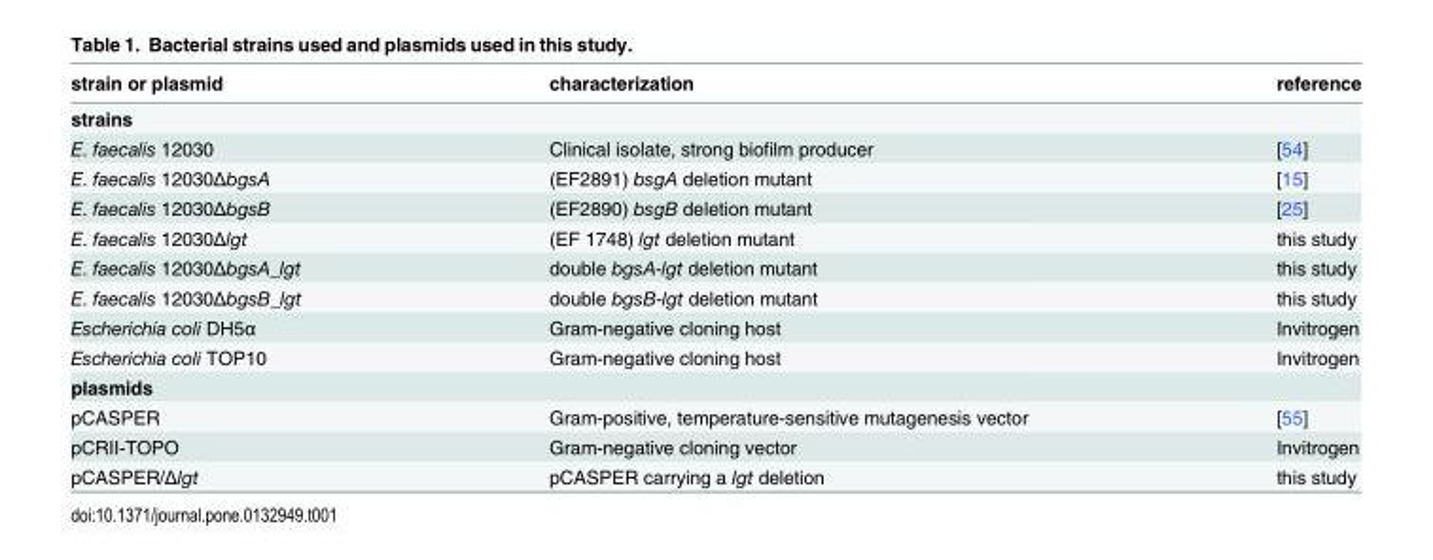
<table><thead><tr><td>strain or plasmid</td><td>characterization</td><td>reference</td></tr></thead><tbody><tr><td colspan="3">strains</td></tr><tr><td>E. faecalis 12030</td><td>Clinical isolate, strong biofilm producer</td><td>[54]</td></tr><tr><td>E. faecalis 12030ΔbgsA</td><td>(EF2891) bsgA deletion mutant</td><td>[15]</td></tr><tr><td>E. faecalis 12030ΔbgsB</td><td>(EF2890) bsgB deletion mutant</td><td>[25]</td></tr><tr><td>E. faecalis 12030Δlgt</td><td>(EF 1748) lgt deletion mutant</td><td>this study</td></tr><tr><td>E. faecalis 12030ΔbgsA_lgt</td><td>double bgsA-lgt deletion mutant</td><td>this study</td></tr><tr><td>E. faecalis 12030ΔbgsB_lgt</td><td>double bgsB-lgt deletion mutant</td><td>this study</td></tr><tr><td>Escherichia coli DH5α</td><td>Gram-negative cloning host</td><td>Invitrogen</td></tr><tr><td>Escherichia coli TOP10</td><td>Gram-negative cloning host</td><td>Invitrogen</td></tr><tr><td colspan="3">plasmids</td></tr><tr><td>pCASPER</td><td>Gram-positive, temperature-sensitive mutagenesis vector</td><td>[55]</td></tr><tr><td>pCRII-TOPO</td><td>Gram-negative cloning vector</td><td>Invitrogen</td></tr><tr><td>pCASPER/Δlgt</td><td>pCASPER carrying a lgt deletion</td><td>this study</td></tr></tbody></table>